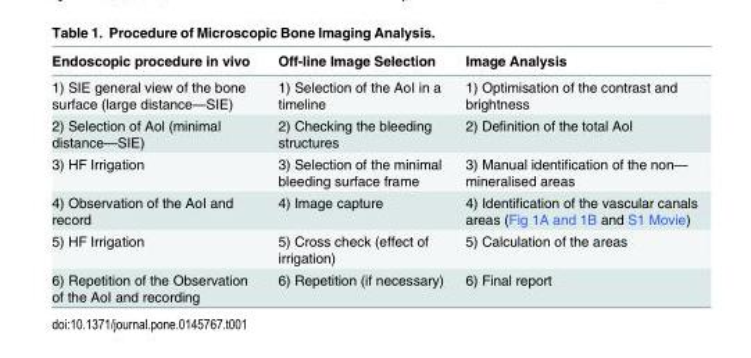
<table><thead><tr><td>Endoscopic procedure in vivo</td><td>Off-line Image Selection</td><td>Image Analysis</td></tr></thead><tbody><tr><td>1) SIE general view of the bone surface (large distance—SIE)</td><td>1) Selection of the AoI in a timeline</td><td>1) Optimisation of the contrast and brightness</td></tr><tr><td>2) Selection of Aol (minimal distance—SIE)</td><td>2) Checking the bleeding structures</td><td>2) Definition of the total AoI</td></tr><tr><td>3) HF Irrigation</td><td>3) Selection of the minimal bleeding surface frame</td><td>3) Manual identification of the non— mineralised areas</td></tr><tr><td>4) Observation of the AoI and record</td><td>4) Image capture</td><td>4) Identification of the vascular canals areas (Fig 1A and 1B and S1 Movie)</td></tr><tr><td>5) HF Irrigation</td><td>5) Cross check (effect of irrigation)</td><td>5) Calculation of the areas</td></tr><tr><td>6) Repetition of the Observation of the AoI and recording</td><td>6) Repetition (if necessary)</td><td>6) Final report</td></tr></tbody></table>